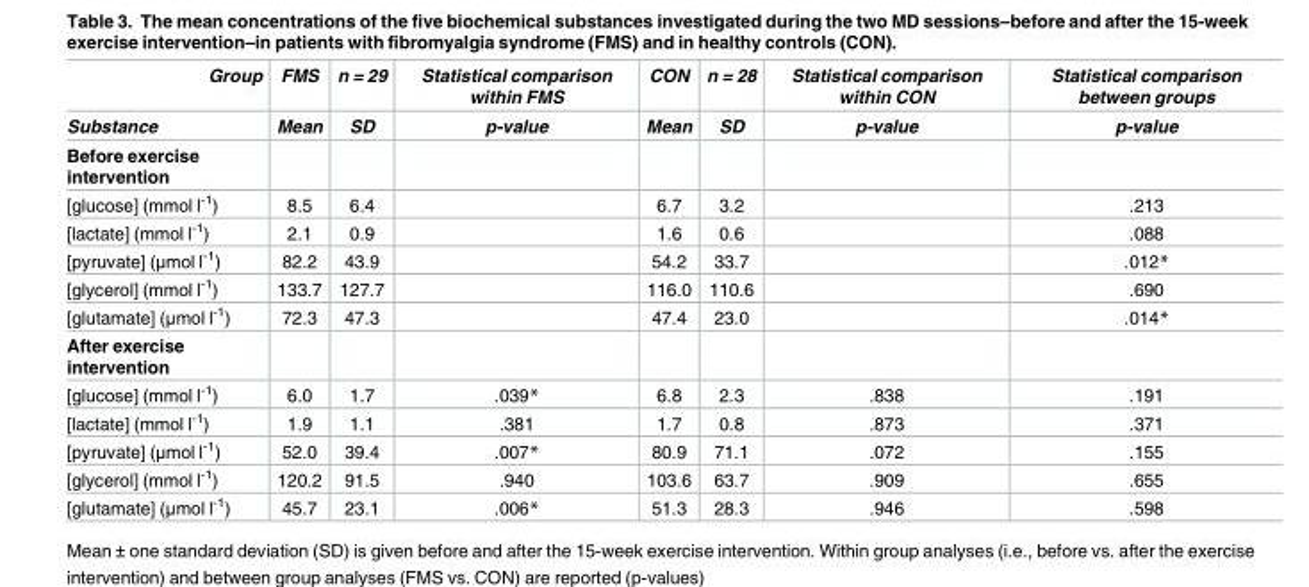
<table><thead><tr><td rowspan="2">Group Substance</td><td rowspan="2">FMS Mean</td><td rowspan="2">n = 29 SD</td><td rowspan="2">Statistical comparison within FMS p-value</td><td rowspan="2">CON Mean</td><td rowspan="2">n = 28 SD</td><td rowspan="2">Statistical comparison within CON p-value</td><td rowspan="2">Statistical comparison between groups p-value</td></tr><tr></tr></thead><tbody><tr><td colspan="8">Before exercise intervention</td></tr><tr><td>[glucose] (mmol l<sup>-1</sup>)</td><td>8.5</td><td>6.4</td><td></td><td>6.7</td><td>3.2</td><td></td><td>.213</td></tr><tr><td>[lactate] (mmol l<sup>-1</sup>)</td><td>2.1</td><td>0.9</td><td></td><td>1.6</td><td>0.6</td><td></td><td>.088</td></tr><tr><td>[pyruvate] (μmol l<sup>-1</sup>)</td><td>82.2</td><td>43.9</td><td></td><td>54.2</td><td>33.7</td><td></td><td>.012*</td></tr><tr><td>[glycerol] (mmol l<sup>-1</sup>)</td><td>133.7</td><td>127.7</td><td></td><td>116.0</td><td>110.6</td><td></td><td>.690</td></tr><tr><td>[glutamate] (μmol l<sup>-1</sup>)</td><td>72.3</td><td>47.3</td><td></td><td>47.4</td><td>23.0</td><td></td><td>.014*</td></tr><tr><td colspan="8">After exercise intervention</td></tr><tr><td>[glucose] (mmol l<sup>-1</sup>)</td><td>6.0</td><td>1.7</td><td>.039*</td><td>6.8</td><td>2.3</td><td>.838</td><td>.191</td></tr><tr><td>[lactate] (mmol l<sup>-1</sup>)</td><td>1.9</td><td>1.1</td><td>.381</td><td>1.7</td><td>0.8</td><td>.873</td><td>.371</td></tr><tr><td>[pyruvate] (μmol l<sup>-1</sup>)</td><td>52.0</td><td>39.4</td><td>.007*</td><td>80.9</td><td>71.1</td><td>.072</td><td>.155</td></tr><tr><td>[glycerol] (mmol l<sup>-1</sup>)</td><td>120.2</td><td>91.5</td><td>.940</td><td>103.6</td><td>63.7</td><td>.909</td><td>.655</td></tr><tr><td>[glutamate] (μmol l<sup>-1</sup>)</td><td>45.7</td><td>23.1</td><td>.006*</td><td>51.3</td><td>28.3</td><td>.946</td><td>.598</td></tr></tbody></table>